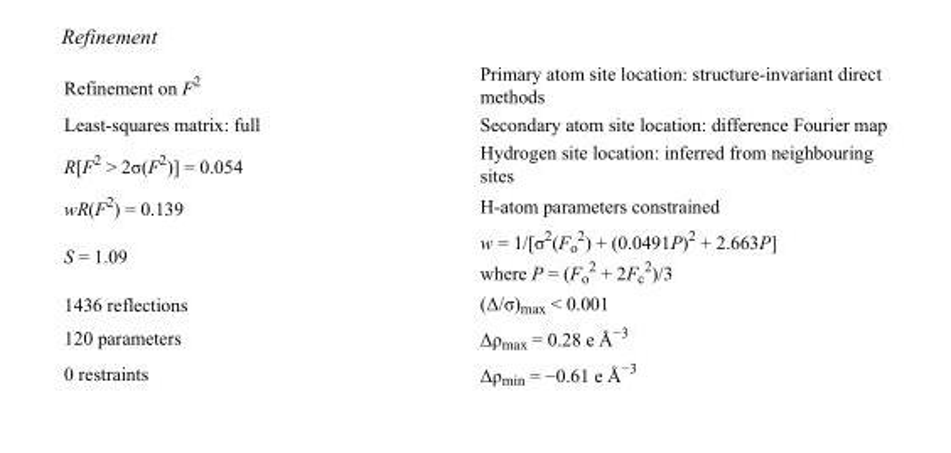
<table><tbody><tr><td>Refinement on F<sup>2</sup></td><td>Primary atom site location: structure-invariant direct methods</td></tr><tr><td>Least-squares matrix: full</td><td>Secondary atom site location: difference Fourier map</td></tr><tr><td>R[F<sup>2</sup> &gt; 2σ(F<sup>2</sup>)] = 0.054</td><td>Hydrogen site location: inferred from neighbouring sites</td></tr><tr><td>wR(F<sup>2</sup>) = 0.139</td><td>H-atom parameters constrained</td></tr><tr><td>S = 1.09</td><td>w = 1/[σ<sup>2</sup>(F<sub>o</sub> <sup>2</sup>) + (0.0491P)<sup>2</sup> + 2.663P] where P = (F<sub>o</sub> <sup>2</sup> + 2F<sub>c</sub> <sup>2</sup>)/3</td></tr><tr><td>1436 reflections</td><td>(Δ/σ)<sub>max</sub> &lt; 0.001</td></tr><tr><td>120 parameters</td><td>Δρ<sub>max</sub> = 0.28 e Å<sup>−3</sup></td></tr><tr><td>0 restraints</td><td>Δρ<sub>min</sub> = −0.61 e Å<sup>−3</sup></td></tr></tbody></table>